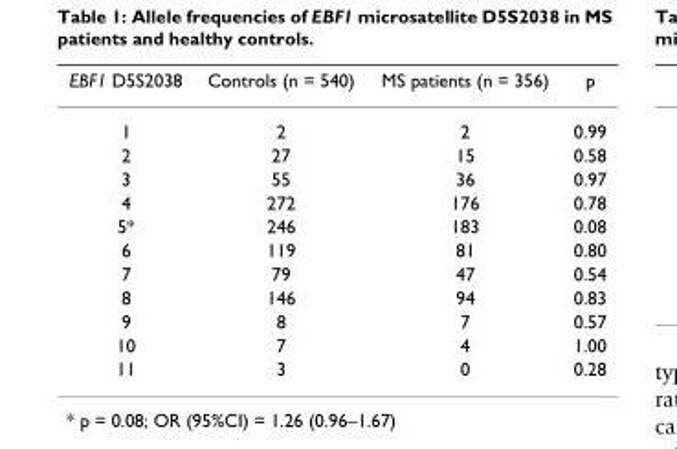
<table><thead><tr><td>EBF1 D5S2038</td><td>Controls (n = 540)</td><td>MS patients (n = 356)</td><td>p</td></tr></thead><tbody><tr><td>1</td><td>2</td><td>2</td><td>0.99</td></tr><tr><td>2</td><td>27</td><td>15</td><td>0.58</td></tr><tr><td>3</td><td>55</td><td>36</td><td>0.97</td></tr><tr><td>4</td><td>272</td><td>176</td><td>0.78</td></tr><tr><td>5*</td><td>246</td><td>183</td><td>0.08</td></tr><tr><td>6</td><td>119</td><td>81</td><td>0.80</td></tr><tr><td>7</td><td>79</td><td>47</td><td>0.54</td></tr><tr><td>8</td><td>146</td><td>94</td><td>0.83</td></tr><tr><td>9</td><td>8</td><td>7</td><td>0.57</td></tr><tr><td>10</td><td>7</td><td>4</td><td>1.00</td></tr><tr><td>11</td><td>3</td><td>0</td><td>0.28</td></tr></tbody></table>